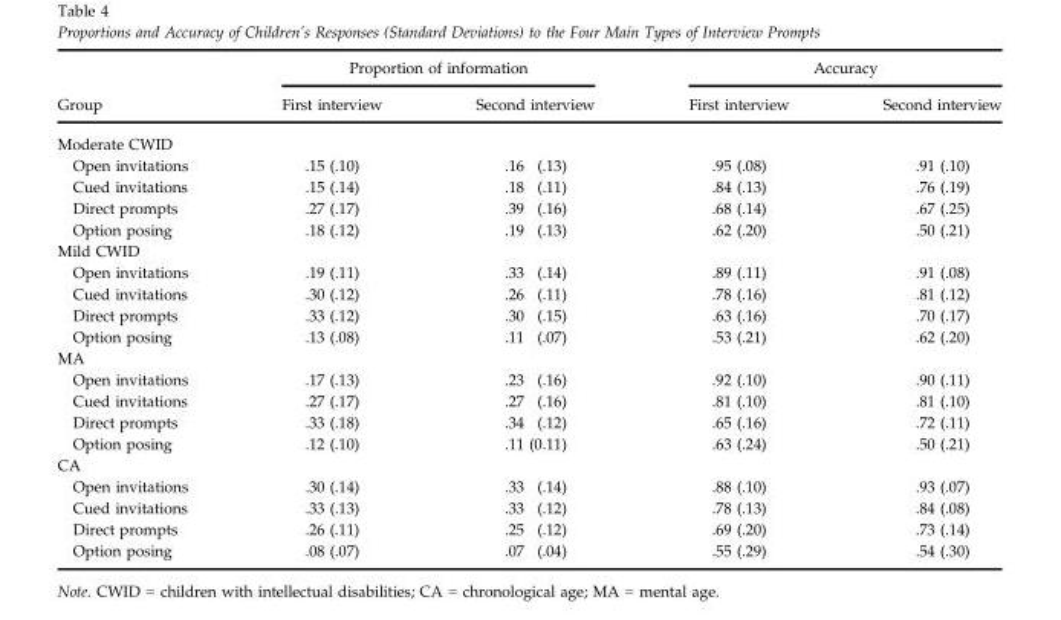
<table><thead><tr><td rowspan="2">Group</td><td colspan="2">Proportion of information</td><td colspan="2">Accuracy</td></tr><tr><td>First interview</td><td>Second interview</td><td>First interview</td><td>Second interview</td></tr></thead><tbody><tr><td colspan="5">Moderate CWID</td></tr><tr><td>Open invitations</td><td>.15 (.10)</td><td>.16 (.13)</td><td>.95 (.08)</td><td>.91 (.10)</td></tr><tr><td>Cued invitations</td><td>.15 (.14)</td><td>.18 (.11)</td><td>.84 (.13)</td><td>.76 (.19)</td></tr><tr><td>Direct prompts</td><td>.27 (.17)</td><td>.39 (.16)</td><td>.68 (.14)</td><td>.67 (.25)</td></tr><tr><td>Option posing</td><td>.18 (.12)</td><td>.19 (.13)</td><td>.62 (.20)</td><td>.50 (.21)</td></tr><tr><td colspan="5">Mild CWID</td></tr><tr><td>Open invitations</td><td>.19 (.11)</td><td>.33 (.14)</td><td>.89 (.11)</td><td>.91 (.08)</td></tr><tr><td>Cued invitations</td><td>.30 (.12)</td><td>.26 (.11)</td><td>.78 (.16)</td><td>.81 (.12)</td></tr><tr><td>Direct prompts</td><td>.33 (.12)</td><td>.30 (.15)</td><td>.63 (.16)</td><td>.70 (.17)</td></tr><tr><td>Option posing</td><td>.13 (.08)</td><td>.11 (.07)</td><td>.53 (.21)</td><td>.62 (.20)</td></tr><tr><td colspan="5">MA</td></tr><tr><td>Open invitations</td><td>.17 (.13)</td><td>.23 (.16)</td><td>.92 (.10)</td><td>.90 (.11)</td></tr><tr><td>Cued invitations</td><td>.27 (.17)</td><td>.27 (.16)</td><td>.81 (.10)</td><td>.81 (.10)</td></tr><tr><td>Direct prompts</td><td>.33 (.18)</td><td>.34 (.12)</td><td>.65 (.16)</td><td>.72 (.11)</td></tr><tr><td>Option posing</td><td>.12 (.10)</td><td>.11 (0.11)</td><td>.63 (.24)</td><td>.50 (.21)</td></tr><tr><td colspan="5">CA</td></tr><tr><td>Open invitations</td><td>.30 (.14)</td><td>.33 (.14)</td><td>.88 (.10)</td><td>.93 (.07)</td></tr><tr><td>Cued invitations</td><td>.33 (.13)</td><td>.33 (.12)</td><td>.78 (.13)</td><td>.84 (.08)</td></tr><tr><td>Direct prompts</td><td>.26 (.11)</td><td>.25 (.12)</td><td>.69 (.20)</td><td>.73 (.14)</td></tr><tr><td>Option posing</td><td>.08 (.07)</td><td>.07 (.04)</td><td>.55 (.29)</td><td>.54 (.30)</td></tr></tbody></table>